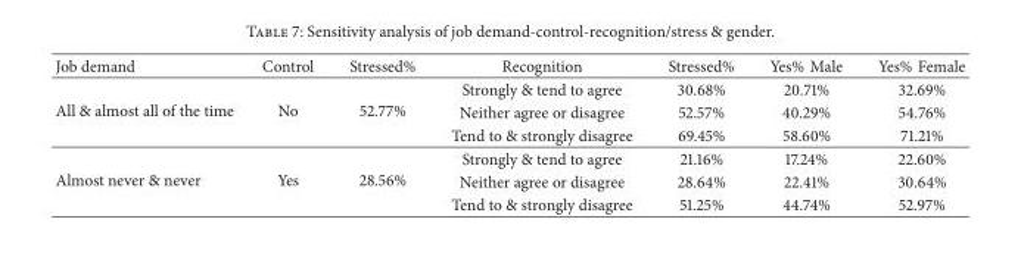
<table><thead><tr><td>Job demand</td><td>Control</td><td>Stressed%</td><td>Recognition</td><td>Stressed%</td><td>Yes% Male</td><td>Yes% Female</td></tr></thead><tbody><tr><td rowspan="3">All &amp; almost all of the time</td><td rowspan="3">No</td><td rowspan="3">52.77%</td><td>Strongly &amp; tend to agree</td><td>30.68%</td><td>20.71%</td><td>32.69%</td></tr><tr><td>Neither agree or disagree</td><td>52.57%</td><td>40.29%</td><td>54.76%</td></tr><tr><td>Tend to &amp; strongly disagree</td><td>69.45%</td><td>58.60%</td><td>71.21%</td></tr><tr><td rowspan="3">Almost never &amp; never</td><td rowspan="3">Yes</td><td rowspan="3">28.56%</td><td>Strongly &amp; tend to agree</td><td>21.16%</td><td>17.24%</td><td>22.60%</td></tr><tr><td>Neither agree or disagree</td><td>28.64%</td><td>22.41%</td><td>30.64%</td></tr><tr><td>Tend to &amp; strongly disagree</td><td>51.25%</td><td>44.74%</td><td>52.97%</td></tr></tbody></table>